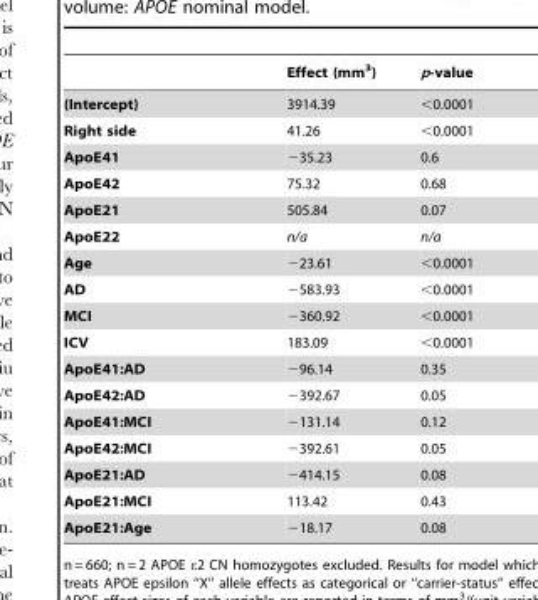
<table><thead><tr><td></td><td>Effect (mm<sup>3</sup>)</td><td>p-value</td></tr></thead><tbody><tr><td>(Intercept)</td><td>3914.39</td><td>&lt;0.0001</td></tr><tr><td>Right side</td><td>41.26</td><td>&lt;0.0001</td></tr><tr><td>ApoE41</td><td>−35.23</td><td>0.6</td></tr><tr><td>ApoE42</td><td>75.32</td><td>0.68</td></tr><tr><td>ApoE21</td><td>505.84</td><td>0.07</td></tr><tr><td>ApoE22</td><td>n/a</td><td>n/a</td></tr><tr><td>Age</td><td>−23.61</td><td>&lt;0.0001</td></tr><tr><td>AD</td><td>−583.93</td><td>&lt;0.0001</td></tr><tr><td>MCI</td><td>−360.92</td><td>&lt;0.0001</td></tr><tr><td>ICV</td><td>183.09</td><td>&lt;0.0001</td></tr><tr><td>ApoE41:AD</td><td>−96.14</td><td>0.35</td></tr><tr><td>ApoE42:AD</td><td>−392.67</td><td>0.05</td></tr><tr><td>ApoE41:MCI</td><td>−131.14</td><td>0.12</td></tr><tr><td>ApoE42:MCI</td><td>−392.61</td><td>0.05</td></tr><tr><td>ApoE21:AD</td><td>−414.15</td><td>0.08</td></tr><tr><td>ApoE21:MCI</td><td>113.42</td><td>0.43</td></tr><tr><td>ApoE21:Age</td><td>−18.17</td><td>0.08</td></tr></tbody></table>